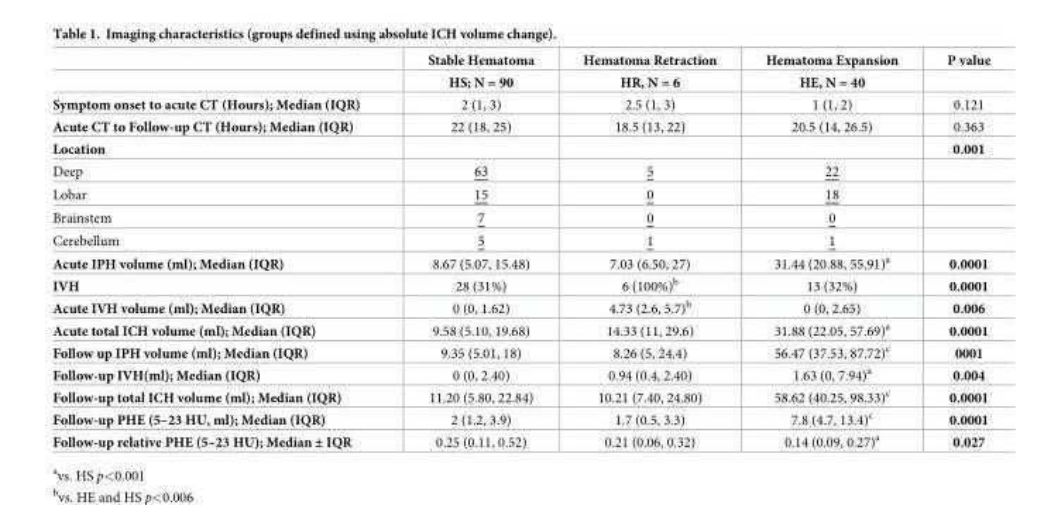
<table><thead><tr><td rowspan="2"></td><td rowspan="2">Stable Hematoma HS; N = 90</td><td rowspan="2">Hematoma Retraction HR, N = 6</td><td rowspan="2">Hematoma Expansion HE, N = 40</td><td rowspan="2">P value</td></tr><tr></tr></thead><tbody><tr><td>Symptom onset to acute CT (Hours); Median (IQR)</td><td>2 (1, 3)</td><td>2.5 (1, 3)</td><td>1 (1, 2)</td><td>0.121</td></tr><tr><td>Acute CT to Follow-up CT (Hours); Median (IQR)</td><td>22 (18, 25)</td><td>18.5 (13, 22)</td><td>20.5 (14, 26.5)</td><td>0.363</td></tr><tr><td>Location</td><td></td><td></td><td></td><td>0.001</td></tr><tr><td>Deep</td><td>63</td><td>5</td><td>22</td><td></td></tr><tr><td>Lobar</td><td>15</td><td>0</td><td>18</td><td></td></tr><tr><td>Brainstem</td><td>7</td><td>0</td><td>0</td><td></td></tr><tr><td>Cerebellum</td><td>5</td><td>1</td><td>1</td><td></td></tr><tr><td>Acute IPH volume (ml); Median (IQR)</td><td>8.67 (5.07, 15.48)</td><td>7.03 (6.50, 27)</td><td>31.44 (20.88, 55.91)<sup>a</sup></td><td>0.0001</td></tr><tr><td>IVH</td><td>28 (31%)</td><td>6 (100%)<sup>b</sup></td><td>13 (32%)</td><td>0.0001</td></tr><tr><td>Acute IVH volume (ml); Median (IQR)</td><td>0 (0, 1.62)</td><td>4.73 (2.6, 5.7)<sup>b</sup></td><td>0 (0, 2.65)</td><td>0.006</td></tr><tr><td>Acute total ICH volume (ml); Median (IQR)</td><td>9.58 (5.10, 19.68)</td><td>14.33 (11, 29.6)</td><td>31.88 (22.05, 57.69)<sup>a</sup></td><td>0.0001</td></tr><tr><td>Follow up IPH volume (ml); Median (IQR)</td><td>9.35 (5.01, 18)</td><td>8.26 (5, 24.4)</td><td>56.47 (37.53, 87.72)<sup>c</sup></td><td>0001</td></tr><tr><td>Follow-up IVH(ml); Median (IQR)</td><td>0 (0, 2.40)</td><td>0.94 (0.4, 2.40)</td><td>1.63 (0, 7.94)<sup>a</sup></td><td>0.004</td></tr><tr><td>Follow-up total ICH volume (ml); Median (IQR)</td><td>11.20 (5.80, 22.84)</td><td>10.21 (7.40, 24.80)</td><td>58.62 (40.25, 98.33)<sup>c</sup></td><td>0.0001</td></tr><tr><td>Follow-up PHE (5–23 HU, ml); Median (IQR)</td><td>2 (1.2, 3.9)</td><td>1.7 (0.5, 3.3)</td><td>7.8 (4.7, 13.4)<sup>c</sup></td><td>0.0001</td></tr><tr><td>Follow-up relative PHE (5–23 HU); Median ± IQR</td><td>0.25 (0.11, 0.52)</td><td>0.21 (0.06, 0.32)</td><td>0.14 (0.09, 0.27)<sup>a</sup></td><td>0.027</td></tr></tbody></table>